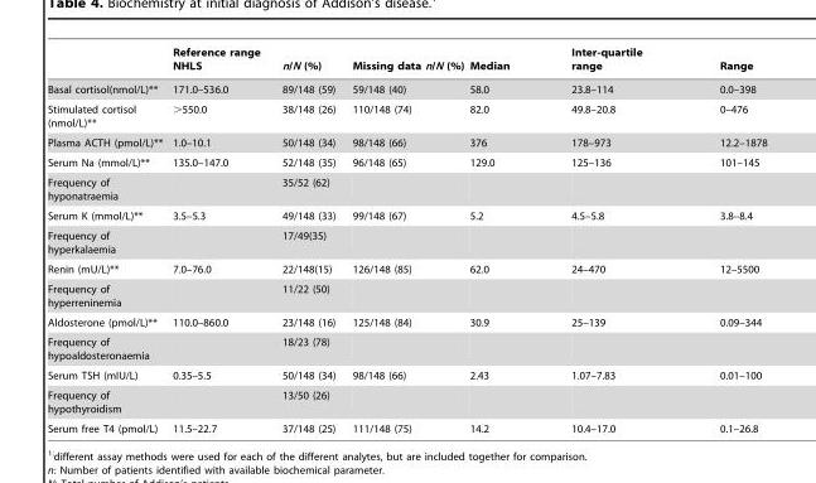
<table><thead><tr><td></td><td>Reference range NHLS</td><td>n/N (%)</td><td>Missing data n/N (%)</td><td>Median</td><td>Inter-quartile range</td><td>Range</td></tr></thead><tbody><tr><td>Basal cortisol(nmol/L)**</td><td>171.0–536.0</td><td>89/148 (59)</td><td>59/148 (40)</td><td>58.0</td><td>23.8–114</td><td>0.0–398</td></tr><tr><td>Stimulated cortisol (nmol/L)**</td><td>&gt;550.0</td><td>38/148 (26)</td><td>110/148 (74)</td><td>82.0</td><td>49.8–20.8</td><td>0–476</td></tr><tr><td>Plasma ACTH (pmol/L)**</td><td>1.0–10.1</td><td>50/148 (34)</td><td>98/148 (66)</td><td>376</td><td>178–973</td><td>12.2–1878</td></tr><tr><td>Serum Na (mmol/L)**</td><td>135.0–147.0</td><td>52/148 (35)</td><td>96/148 (65)</td><td>129.0</td><td>125–136</td><td>101–145</td></tr><tr><td>Frequency of hyponatraemia</td><td></td><td>35/52 (62)</td><td></td><td></td><td></td><td></td></tr><tr><td>Serum K (mmol/L)**</td><td>3.5–5.3</td><td>49/148 (33)</td><td>99/148 (67)</td><td>5.2</td><td>4.5–5.8</td><td>3.8–8.4</td></tr><tr><td>Frequency of hyperkalaemia</td><td></td><td>17/49(35)</td><td></td><td></td><td></td><td></td></tr><tr><td>Renin (mU/L)**</td><td>7.0–76.0</td><td>22/148(15)</td><td>126/148 (85)</td><td>62.0</td><td>24–470</td><td>12–5500</td></tr><tr><td>Frequency of hyperreninemia</td><td></td><td>11/22 (50)</td><td></td><td></td><td></td><td></td></tr><tr><td>Aldosterone (pmol/L)**</td><td>110.0–860.0</td><td>23/148 (16)</td><td>125/148 (84)</td><td>30.9</td><td>25–139</td><td>0.09–344</td></tr><tr><td>Frequency of hypoaldosteronaemia</td><td></td><td>18/23 (78)</td><td></td><td></td><td></td><td></td></tr><tr><td>Serum TSH (mIU/L)</td><td>0.35–5.5</td><td>50/148 (34)</td><td>98/148 (66)</td><td>2.43</td><td>1.07–7.83</td><td>0.01–100</td></tr><tr><td>Frequency of hypothyroidism</td><td></td><td>13/50 (26)</td><td></td><td></td><td></td><td></td></tr><tr><td>Serum free T4 (pmol/L)</td><td>11.5–22.7</td><td>37/148 (25)</td><td>111/148 (75)</td><td>14.2</td><td>10.4–17.0</td><td>0.1–26.8</td></tr></tbody></table>